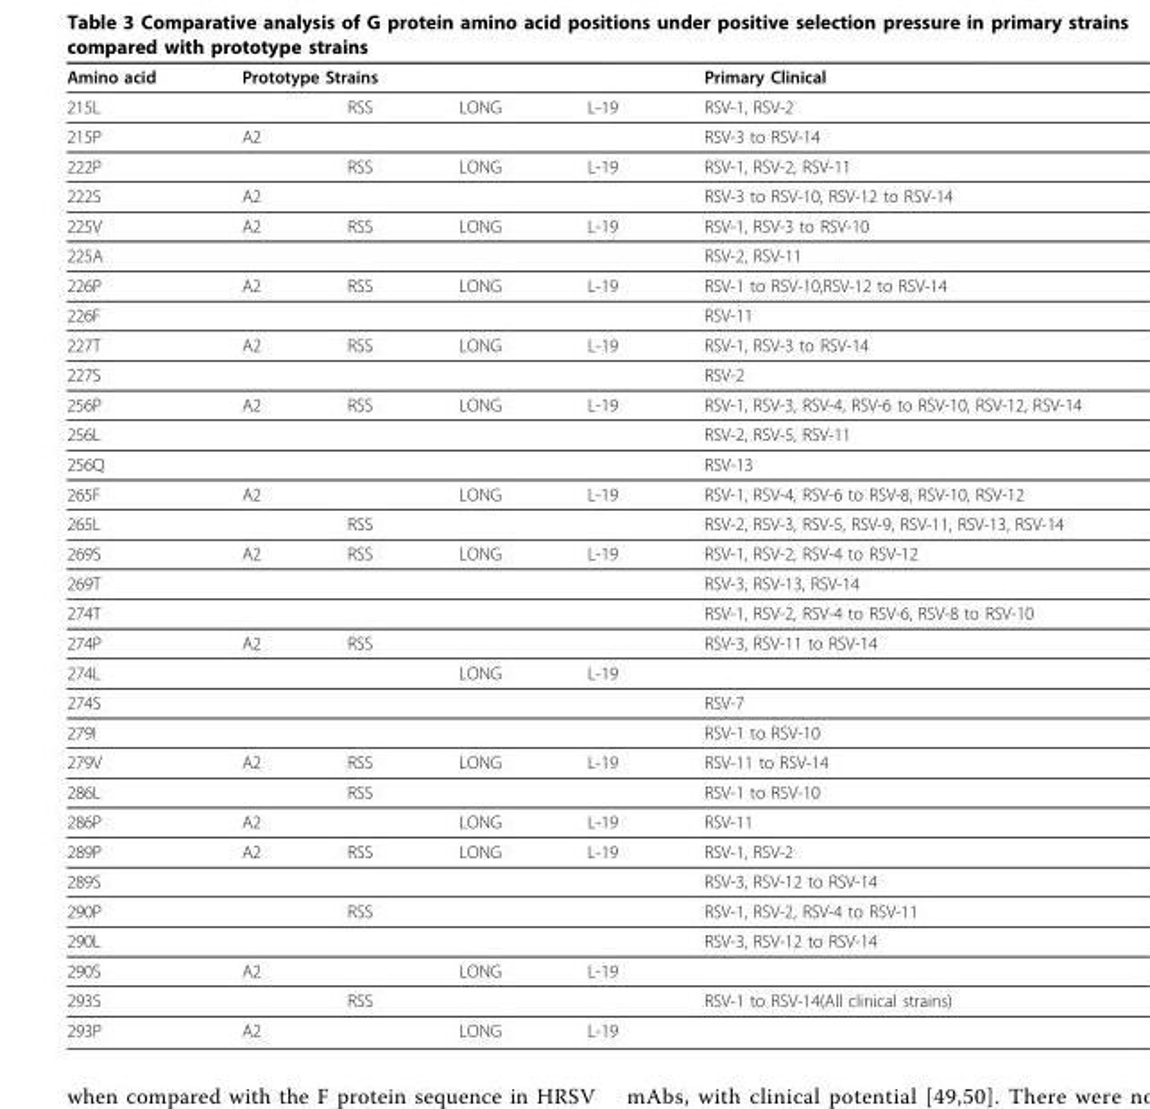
<table><thead><tr><td rowspan="2">Amino acid 215L</td><td colspan="4">Prototype Strains</td><td rowspan="2">Primary Clinical RSV-1, RSV-2</td></tr><tr><td></td><td>RSS</td><td>LONG</td><td>L-19</td></tr></thead><tbody><tr><td>215P</td><td>A2</td><td></td><td></td><td></td><td>RSV-3 to RSV-14</td></tr><tr><td>222P</td><td></td><td>RSS</td><td>LONG</td><td>L-19</td><td>RSV-1, RSV-2, RSV-11</td></tr><tr><td>222S</td><td>A2</td><td></td><td></td><td></td><td>RSV-3 to RSV-10, RSV-12 to RSV-14</td></tr><tr><td>225V</td><td>A2</td><td>RSS</td><td>LONG</td><td>L-19</td><td>RSV-1, RSV-3 to RSV-10</td></tr><tr><td>225A</td><td></td><td></td><td></td><td></td><td>RSV-2, RSV-11</td></tr><tr><td>226P</td><td>A2</td><td>RSS</td><td>LONG</td><td>L-19</td><td>RSV-1 to RSV-10,RSV-12 to RSV-14</td></tr><tr><td>226F</td><td></td><td></td><td></td><td></td><td>RSV-11</td></tr><tr><td>227T</td><td>A2</td><td>RSS</td><td>LONG</td><td>L-19</td><td>RSV-1, RSV-3 to RSV-14</td></tr><tr><td>227S</td><td></td><td></td><td></td><td></td><td>RSV-2</td></tr><tr><td>256P</td><td>A2</td><td>RSS</td><td>LONG</td><td>L-19</td><td>RSV-1, RSV-3, RSV-4, RSV-6 to RSV-10, RSV-12, RSV-14</td></tr><tr><td>256L</td><td></td><td></td><td></td><td></td><td>RSV-2, RSV-5, RSV-11</td></tr><tr><td>256Q</td><td></td><td></td><td></td><td></td><td>RSV-13</td></tr><tr><td>265F</td><td>A2</td><td></td><td>LONG</td><td>L-19</td><td>RSV-1, RSV-4, RSV-6 to RSV-8, RSV-10, RSV-12</td></tr><tr><td>265L</td><td></td><td>RSS</td><td></td><td></td><td>RSV-2, RSV-3, RSV-5, RSV-9, RSV-11, RSV-13, RSV-14</td></tr><tr><td>269S</td><td>A2</td><td>RSS</td><td>LONG</td><td>L-19</td><td>RSV-1, RSV-2, RSV-4 to RSV-12</td></tr><tr><td>269T</td><td></td><td></td><td></td><td></td><td>RSV-3, RSV-13, RSV-14</td></tr><tr><td>274T</td><td></td><td></td><td></td><td></td><td>RSV-1, RSV-2, RSV-4 to RSV-6, RSV-8 to RSV-10</td></tr><tr><td>274P</td><td>A2</td><td>RSS</td><td></td><td></td><td>RSV-3, RSV-11 to RSV-14</td></tr><tr><td>274L</td><td></td><td></td><td>LONG</td><td>L-19</td><td></td></tr><tr><td>274S</td><td></td><td></td><td></td><td></td><td>RSV-7</td></tr><tr><td>279I</td><td></td><td></td><td></td><td></td><td>RSV-1 to RSV-10</td></tr><tr><td>279V</td><td>A2</td><td>RSS</td><td>LONG</td><td>L-19</td><td>RSV-11 to RSV-14</td></tr><tr><td>286L</td><td></td><td>RSS</td><td></td><td></td><td>RSV-1 to RSV-10</td></tr><tr><td>286P</td><td>A2</td><td></td><td>LONG</td><td>L-19</td><td>RSV-11</td></tr><tr><td>289P</td><td>A2</td><td>RSS</td><td>LONG</td><td>L-19</td><td>RSV-1, RSV-2</td></tr><tr><td>289S</td><td></td><td></td><td></td><td></td><td>RSV-3, RSV-12 to RSV-14</td></tr><tr><td>290P</td><td></td><td>RSS</td><td></td><td></td><td>RSV-1, RSV-2, RSV-4 to RSV-11</td></tr><tr><td>290L</td><td></td><td></td><td></td><td></td><td>RSV-3, RSV-12 to RSV-14</td></tr><tr><td>290S</td><td>A2</td><td></td><td>LONG</td><td>L-19</td><td></td></tr><tr><td>293S</td><td></td><td>RSS</td><td></td><td></td><td>RSV-1 to RSV-14(All clinical strains)</td></tr><tr><td>293P</td><td>A2</td><td></td><td>LONG</td><td>L-19</td><td></td></tr></tbody></table>